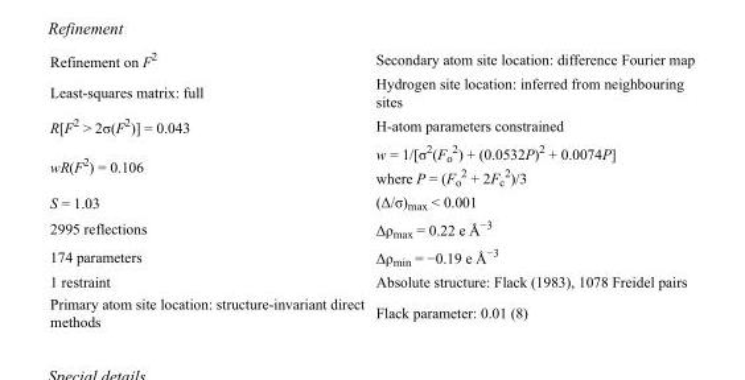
<table><tbody><tr><td>Refinement on F<sup>2</sup></td><td>Secondary atom site location: difference Fourier map</td></tr><tr><td>Least-squares matrix: full</td><td>Hydrogen site location: inferred from neighbouring sites</td></tr><tr><td>R[F<sup>2</sup> &gt; 2σ(F<sup>2</sup>)] = 0.043</td><td>H-atom parameters constrained</td></tr><tr><td>wR(F<sup>2</sup>) = 0.106</td><td>w = 1/[σ<sup>2</sup>(F<sub>o</sub> <sup>2</sup>) + (0.0532P)<sup>2</sup> + 0.0074P] where P = (F<sub>o</sub> <sup>2</sup> + 2F<sub>c</sub> <sup>2</sup>)/3</td></tr><tr><td>S = 1.03</td><td>(Δ/σ)<sub>max</sub> &lt; 0.001</td></tr><tr><td>2995 reflections</td><td>Δρ<sub>max</sub> = 0.22 e Å<sup>−3</sup></td></tr><tr><td>174 parameters</td><td>Δρ<sub>min</sub> = −0.19 e Å<sup>−3</sup></td></tr><tr><td>1 restraint</td><td>Absolute structure: Flack (1983), 1078 Freidel pairs</td></tr><tr><td>Primary atom site location: structure-invariant direct methods</td><td>Flack parameter: 0.01 (8)</td></tr></tbody></table>